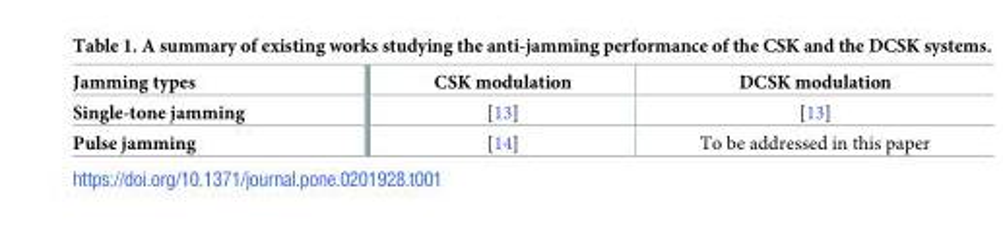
<table><thead><tr><td>Jamming types</td><td>CSK modulation</td><td>DCSK modulation</td></tr></thead><tbody><tr><td>Single-tone jamming</td><td>[13]</td><td>[13]</td></tr><tr><td>Pulse jamming</td><td>[14]</td><td>To be addressed in this paper</td></tr></tbody></table>